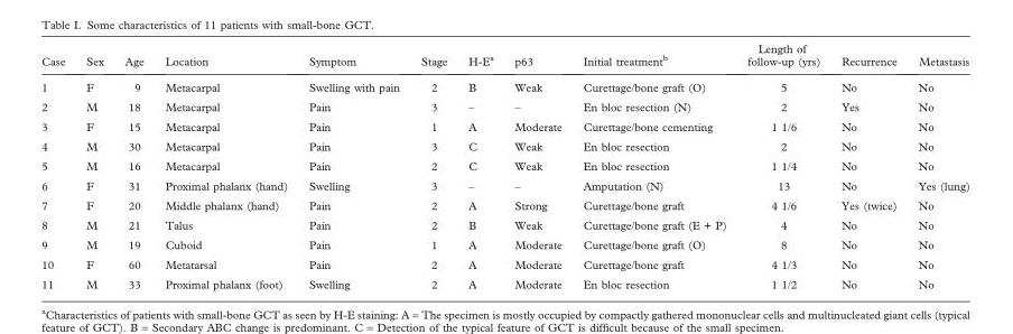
<table><thead><tr><td>Case</td><td>Sex</td><td>Age</td><td>Location</td><td>Symptom</td><td>Stage</td><td>H-E<sup>a</sup></td><td>p63</td><td>Initial treatment<sup>b</sup></td><td>Length of follow-up (yrs)</td><td>Recurrence</td><td>Metastasis</td></tr></thead><tbody><tr><td>1</td><td>F</td><td>9</td><td>Metacarpal</td><td>Swelling with pain</td><td>2</td><td>B</td><td>Weak</td><td>Curettage/bone graft (O)</td><td>5</td><td>No</td><td>No</td></tr><tr><td>2</td><td>M</td><td>18</td><td>Metacarpal</td><td>Pain</td><td>3</td><td>–</td><td>–</td><td>En bloc resection (N)</td><td>2</td><td>Yes</td><td>No</td></tr><tr><td>3</td><td>F</td><td>15</td><td>Metacarpal</td><td>Pain</td><td>1</td><td>A</td><td>Moderate</td><td>Curettage/bone cementing</td><td>1 1/6</td><td>No</td><td>No</td></tr><tr><td>4</td><td>M</td><td>30</td><td>Metacarpal</td><td>Pain</td><td>3</td><td>C</td><td>Weak</td><td>En bloc resection</td><td>2</td><td>No</td><td>No</td></tr><tr><td>5</td><td>M</td><td>16</td><td>Metacarpal</td><td>Pain</td><td>2</td><td>C</td><td>Weak</td><td>En bloc resection</td><td>1 1/4</td><td>No</td><td>No</td></tr><tr><td>6</td><td>F</td><td>31</td><td>Proximal phalanx (hand)</td><td>Swelling</td><td>3</td><td>–</td><td>–</td><td>Amputation (N)</td><td>13</td><td>No</td><td>Yes (lung)</td></tr><tr><td>7</td><td>F</td><td>20</td><td>Middle phalanx (hand)</td><td>Pain</td><td>2</td><td>A</td><td>Strong</td><td>Curettage/bone graft</td><td>4 1/6</td><td>Yes (twice)</td><td>No</td></tr><tr><td>8</td><td>M</td><td>21</td><td>Talus</td><td>Pain</td><td>2</td><td>B</td><td>Weak</td><td>Curettage/bone graft (E + P)</td><td>4</td><td>No</td><td>No</td></tr><tr><td>9</td><td>M</td><td>19</td><td>Cuboid</td><td>Pain</td><td>1</td><td>A</td><td>Moderate</td><td>Curettage/bone graft (O)</td><td>8</td><td>No</td><td>No</td></tr><tr><td>10</td><td>F</td><td>60</td><td>Metatarsal</td><td>Pain</td><td>2</td><td>A</td><td>Moderate</td><td>Curettage/bone graft</td><td>4 1/3</td><td>No</td><td>No</td></tr><tr><td>11</td><td>M</td><td>33</td><td>Proximal phalanx (foot)</td><td>Swelling</td><td>2</td><td>A</td><td>Moderate</td><td>En bloc resection</td><td>1 1/2</td><td>No</td><td>No</td></tr></tbody></table>